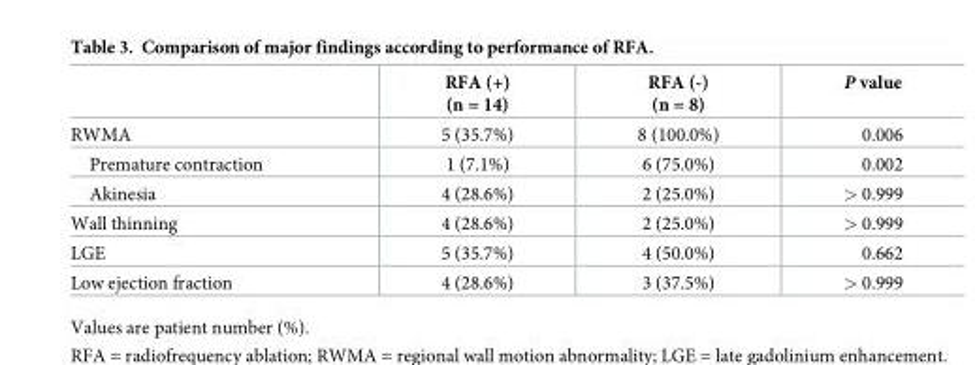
<table><thead><tr><td></td><td>RFA (+) (n = 14)</td><td>RFA (-) (n = 8)</td><td>P value</td></tr></thead><tbody><tr><td>RWMA</td><td>5 (35.7%)</td><td>8 (100.0%)</td><td>0.006</td></tr><tr><td>Premature contraction</td><td>1 (7.1%)</td><td>6 (75.0%)</td><td>0.002</td></tr><tr><td>Akinesia</td><td>4 (28.6%)</td><td>2 (25.0%)</td><td>&gt; 0.999</td></tr><tr><td>Wall thinning</td><td>4 (28.6%)</td><td>2 (25.0%)</td><td>&gt; 0.999</td></tr><tr><td>LGE</td><td>5 (35.7%)</td><td>4 (50.0%)</td><td>0.662</td></tr><tr><td>Low ejection fraction</td><td>4 (28.6%)</td><td>3 (37.5%)</td><td>&gt; 0.999</td></tr></tbody></table>